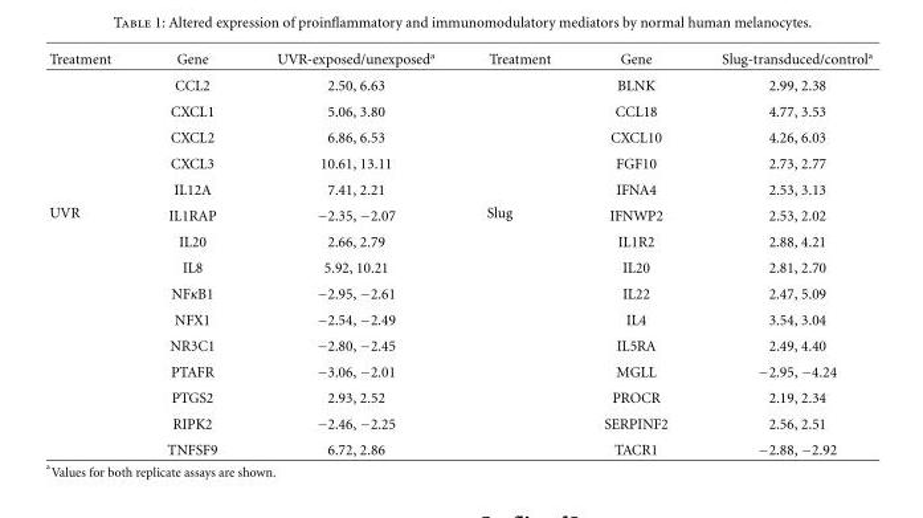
<table><thead><tr><td>Treatment</td><td>Gene</td><td>UVR-exposed/unexposed<sup>a</sup></td><td>Treatment</td><td>Gene</td><td>Slug-transduced/control<sup>a</sup></td></tr></thead><tbody><tr><td rowspan="15">UVR</td><td>CCL2</td><td>2.50, 6.63</td><td rowspan="12">Slug</td><td>BLNK</td><td>2.99, 2.38</td></tr><tr><td>CXCL1</td><td>5.06, 3.80</td><td>CCL18</td><td>4.77, 3.53</td></tr><tr><td>CXCL2</td><td>6.86, 6.53</td><td>CXCL10</td><td>4.26, 6.03</td></tr><tr><td>CXCL3</td><td>10.61, 13.11</td><td>FGF10</td><td>2.73, 2.77</td></tr><tr><td>IL12A</td><td>7.41, 2.21</td><td>IFNA4</td><td>2.53, 3.13</td></tr><tr><td>IL1RAP</td><td>−2.35, −2.07</td><td>IFNWP2</td><td>2.53, 2.02</td></tr><tr><td>IL20</td><td>2.66, 2.79</td><td>IL1R2</td><td>2.88, 4.21</td></tr><tr><td>IL8</td><td>5.92, 10.21</td><td>IL20</td><td>2.81, 2.70</td></tr><tr><td>NFκB1</td><td>−2.95, −2.61</td><td>IL22</td><td>2.47, 5.09</td></tr><tr><td>NFX1</td><td>−2.54, −2.49</td><td>IL4</td><td>3.54, 3.04</td></tr><tr><td>NR3C1</td><td>−2.80, −2.45</td><td>IL5RA</td><td>2.49, 4.40</td></tr><tr><td>PTAFR</td><td>−3.06, −2.01</td><td>MGLL</td><td>−2.95, −4.24</td></tr><tr><td>PTGS2</td><td>2.93, 2.52</td><td></td><td>PROCR</td><td>2.19, 2.34</td></tr><tr><td>RIPK2</td><td>−2.46, −2.25</td><td></td><td>SERPINF2</td><td>2.56, 2.51</td></tr><tr><td>TNFSF9</td><td>6.72, 2.86</td><td></td><td>TACR1</td><td>−2.88, −2.92</td></tr></tbody></table>